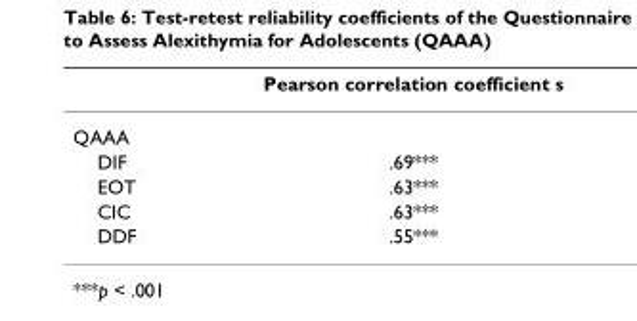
<table><thead><tr><td></td><td>Pearson correlation coefficient s</td></tr></thead><tbody><tr><td colspan="2">QAAA</td></tr><tr><td>DIF</td><td>.69***</td></tr><tr><td>EOT</td><td>.63***</td></tr><tr><td>CIC</td><td>.63***</td></tr><tr><td>DDF</td><td>.55***</td></tr></tbody></table>